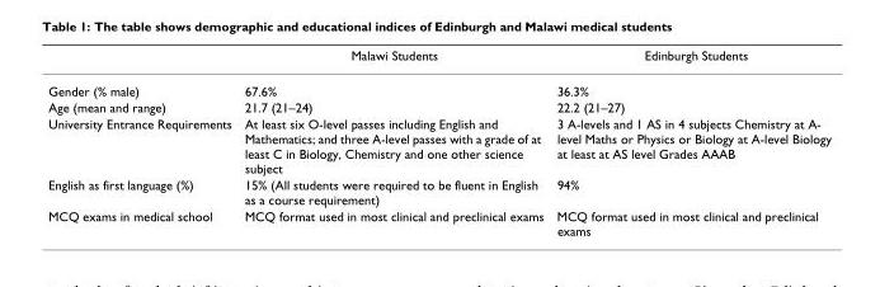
<table><thead><tr><td></td><td>Malawi Students</td><td>Edinburgh Students</td></tr></thead><tbody><tr><td>Gender (% male)</td><td>67.6%</td><td>36.3%</td></tr><tr><td>Age (mean and range)</td><td>21.7 (21–24)</td><td>22.2 (21–27)</td></tr><tr><td>University Entrance Requirements</td><td>At least six O-level passes including English and Mathematics; and three A-level passes with a grade of at least C in Biology, Chemistry and one other science subject</td><td>3 A-levels and 1 AS in 4 subjects Chemistry at A- level Maths or Physics or Biology at A-level Biology at least at AS level Grades AAAB</td></tr><tr><td>English as first language (%)</td><td>15% (All students were required to be fluent in English as a course requirement)</td><td>94%</td></tr><tr><td>MCQ exams in medical school</td><td>MCQ format used in most clinical and preclinical exams</td><td>MCQ format used in most clinical and preclinical exams</td></tr></tbody></table>